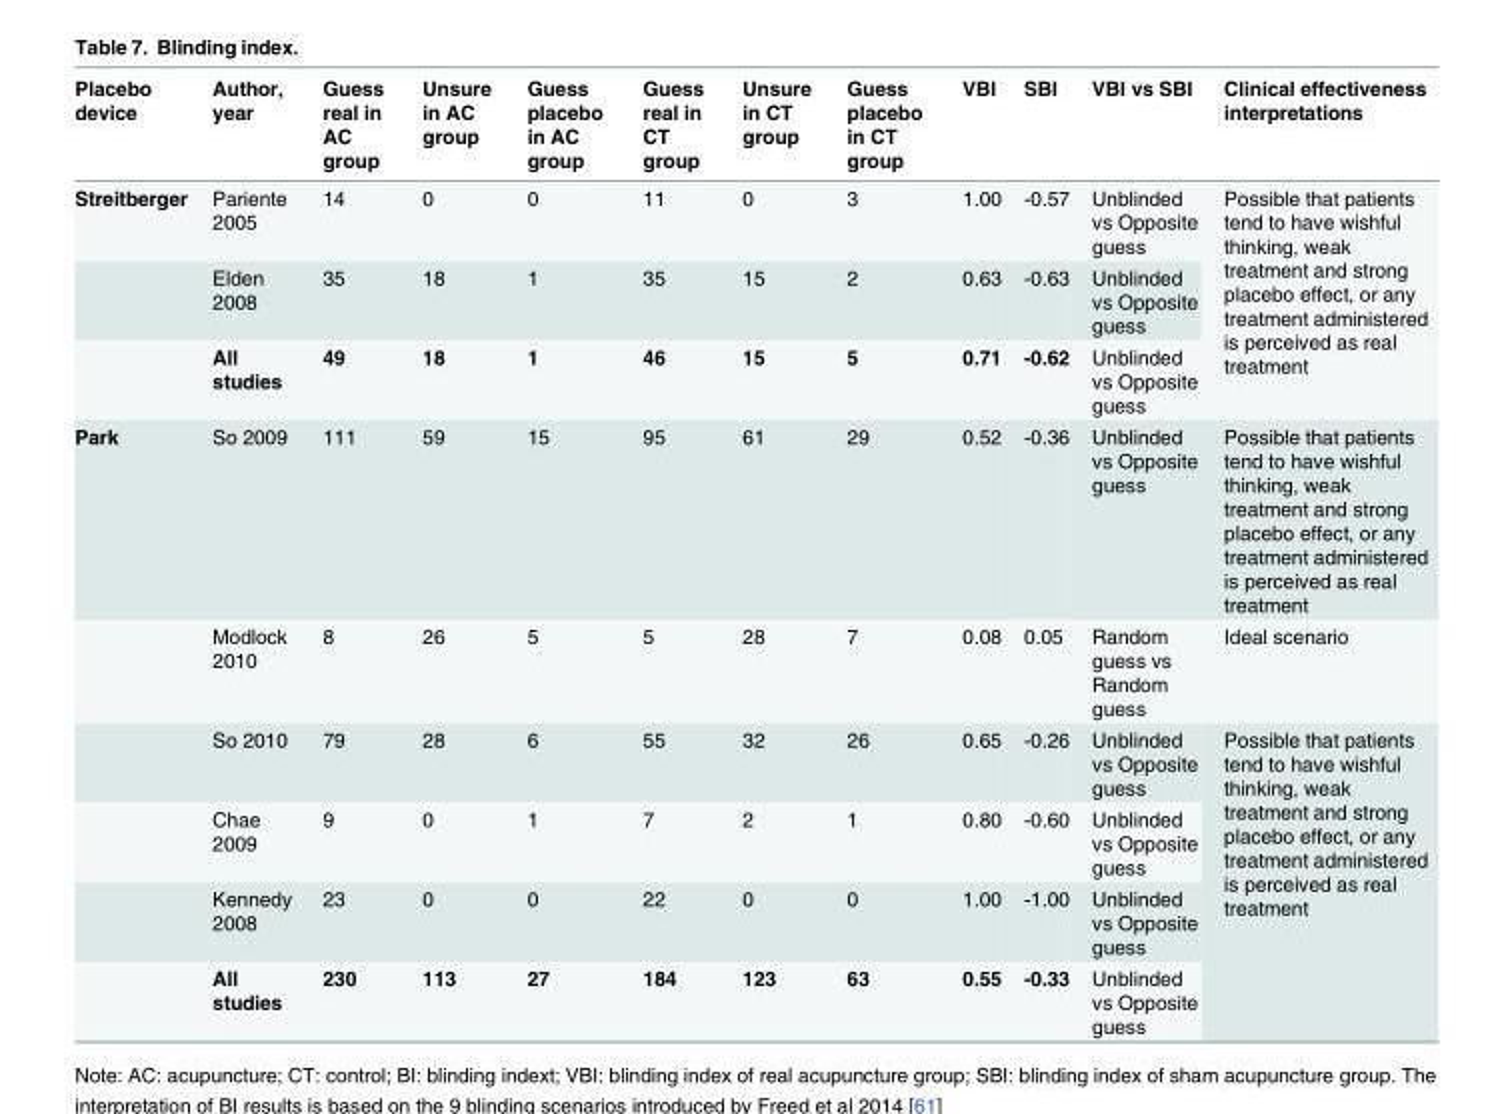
<table><thead><tr><td>Placebo device</td><td>Author, year</td><td>Guess real in AC group</td><td>Unsure in AC group</td><td>Guess placebo in AC group</td><td>Guess real in CT group</td><td>Unsure in CT group</td><td>Guess placebo in CT group</td><td>VBI</td><td>SBI</td><td>VBI vs SBI</td><td>Clinical effectiveness interpretations</td></tr></thead><tbody><tr><td rowspan="3">Streitberger</td><td>Pariente 2005</td><td>14</td><td>0</td><td>0</td><td>11</td><td>0</td><td>3</td><td>1.00</td><td>-0.57</td><td>Unblinded vs Opposite guess</td><td rowspan="3">Possible that patients tend to have wishful thinking, weak treatment and strong placebo effect, or any treatment administered is perceived as real treatment</td></tr><tr><td>Elden 2008</td><td>35</td><td>18</td><td>1</td><td>35</td><td>15</td><td>2</td><td>0.63</td><td>-0.63</td><td>Unblinded vs Opposite guess</td></tr><tr><td>All studies</td><td>49</td><td>18</td><td>1</td><td>46</td><td>15</td><td>5</td><td>0.71</td><td>-0.62</td><td>Unblinded vs Opposite guess</td></tr><tr><td rowspan="6">Park</td><td>So 2009</td><td>111</td><td>59</td><td>15</td><td>95</td><td>61</td><td>29</td><td>0.52</td><td>-0.36</td><td>Unblinded vs Opposite guess</td><td>Possible that patients tend to have wishful thinking, weak treatment and strong placebo effect, or any treatment administered is perceived as real treatment</td></tr><tr><td>Modlock 2010</td><td>8</td><td>26</td><td>5</td><td>5</td><td>28</td><td>7</td><td>0.08</td><td>0.05</td><td>Random guess vs Random guess</td><td>Ideal scenario</td></tr><tr><td>So 2010</td><td>79</td><td>28</td><td>6</td><td>55</td><td>32</td><td>26</td><td>0.65</td><td>-0.26</td><td>Unblinded vs Opposite guess</td><td rowspan="4">Possible that patients tend to have wishful thinking, weak treatment and strong placebo effect, or any treatment administered is perceived as real treatment</td></tr><tr><td>Chae 2009</td><td>9</td><td>0</td><td>1</td><td>7</td><td>2</td><td>1</td><td>0.80</td><td>-0.60</td><td>Unblinded vs Opposite guess</td></tr><tr><td>Kennedy 2008</td><td>23</td><td>0</td><td>0</td><td>22</td><td>0</td><td>0</td><td>1.00</td><td>-1.00</td><td>Unblinded vs Opposite guess</td></tr><tr><td>All studies</td><td>230</td><td>113</td><td>27</td><td>184</td><td>123</td><td>63</td><td>0.55</td><td>-0.33</td><td>Unblinded vs Opposite guess</td></tr></tbody></table>